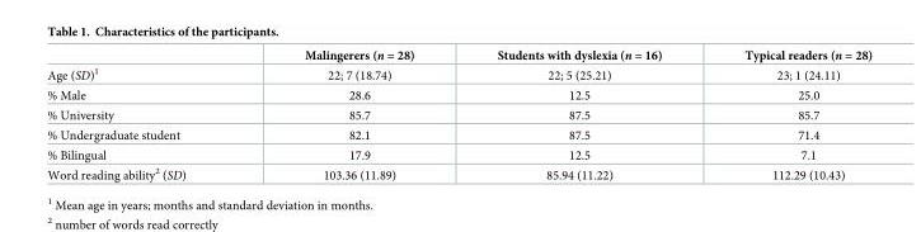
<table><thead><tr><td></td><td>Malingerers (n = 28)</td><td>Students with dyslexia (n = 16)</td><td>Typical readers (n = 28)</td></tr></thead><tbody><tr><td>Age (SD)<sup>1</sup></td><td>22; 7 (18.74)</td><td>22; 5 (25.21)</td><td>23; 1 (24.11)</td></tr><tr><td>% Male</td><td>28.6</td><td>12.5</td><td>25.0</td></tr><tr><td>% University</td><td>85.7</td><td>87.5</td><td>85.7</td></tr><tr><td>% Undergraduate student</td><td>82.1</td><td>87.5</td><td>71.4</td></tr><tr><td>% Bilingual</td><td>17.9</td><td>12.5</td><td>7.1</td></tr><tr><td>Word reading ability<sup>2</sup> (SD)</td><td>103.36 (11.89)</td><td>85.94 (11.22)</td><td>112.29 (10.43)</td></tr></tbody></table>